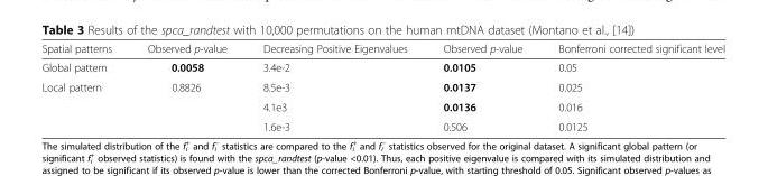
<table><thead><tr><td>Spatial patterns</td><td>Observed p-value</td><td>Decreasing Positive Eigenvalues</td><td>Observed p-value</td><td>Bonferroni corrected significant level</td></tr></thead><tbody><tr><td>Global pattern</td><td>0.0058</td><td>3.4e-2</td><td>0.0105</td><td>0.05</td></tr><tr><td rowspan="3">Local pattern</td><td>0.8826</td><td>8.5e-3</td><td>0.0137</td><td>0.025</td></tr><tr><td rowspan="2"></td><td>4.1e3</td><td>0.0136</td><td>0.016</td></tr><tr><td>1.6e-3</td><td>0.506</td><td>0.0125</td></tr></tbody></table>